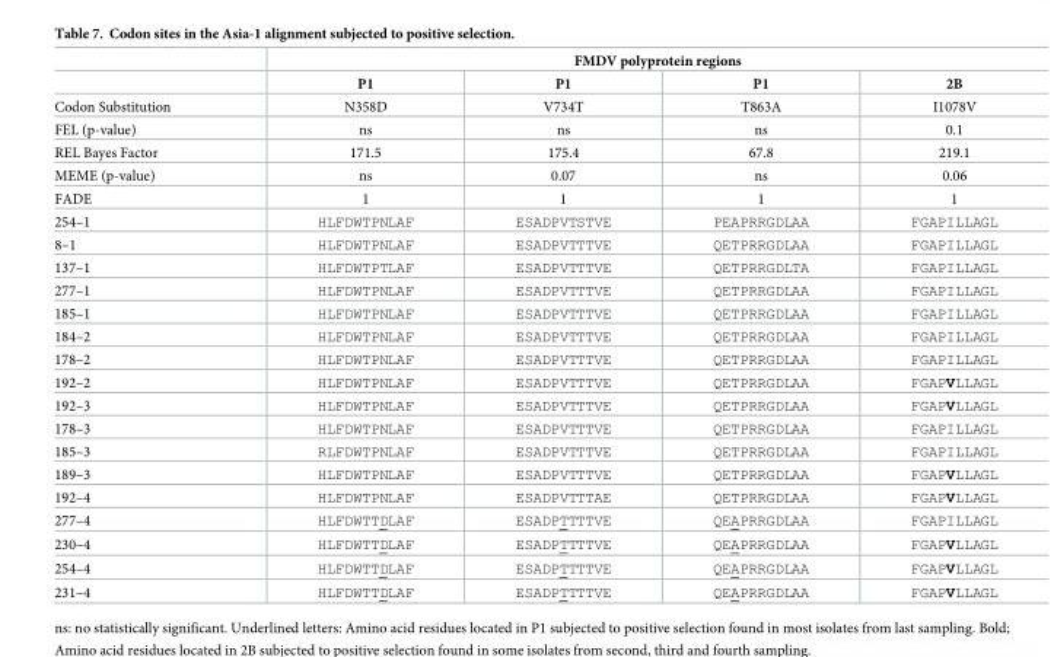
<table><thead><tr><td rowspan="2"></td><td colspan="4">FMDV polyprotein regions</td></tr><tr><td>P1</td><td>P1</td><td>P1</td><td>2B</td></tr></thead><tbody><tr><td>Codon Substitution</td><td>N358D</td><td>V734T</td><td>T863A</td><td>I1078V</td></tr><tr><td>FEL (p-value)</td><td>ns</td><td>ns</td><td>ns</td><td>0.1</td></tr><tr><td>REL Bayes Factor</td><td>171.5</td><td>175.4</td><td>67.8</td><td>219.1</td></tr><tr><td>MEME (p-value)</td><td>ns</td><td>0.07</td><td>ns</td><td>0.06</td></tr><tr><td>FADE</td><td>1</td><td>1</td><td>1</td><td>1</td></tr><tr><td>254–1</td><td>HLFDWTPNLAF</td><td>ESADPVTSTVE</td><td>PEAPRRGDLAA</td><td>FGAPILLAGL</td></tr><tr><td>8–1</td><td>HLFDWTPNLAF</td><td>ESADPVTTTVE</td><td>QETPRRGDLAA</td><td>FGAPILLAGL</td></tr><tr><td>137–1</td><td>HLFDWTPTLAF</td><td>ESADPVTTTVE</td><td>QETPRRGDLTA</td><td>FGAPILLAGL</td></tr><tr><td>277–1</td><td>HLFDWTPNLAF</td><td>ESADPVTTTVE</td><td>QETPRRGDLAA</td><td>FGAPILLAGL</td></tr><tr><td>185–1</td><td>HLFDWTPNLAF</td><td>ESADPVTTTVE</td><td>QETPRRGDLAA</td><td>FGAPILLAGL</td></tr><tr><td>184–2</td><td>HLFDWTPNLAF</td><td>ESADPVTTTVE</td><td>QETPRRGDLAA</td><td>FGAPILLAGL</td></tr><tr><td>178–2</td><td>HLFDWTPNLAF</td><td>ESADPVTTTVE</td><td>QETPRRGDLAA</td><td>FGAPILLAGL</td></tr><tr><td>192–2</td><td>HLFDWTPNLAF</td><td>ESADPVTTTVE</td><td>QETPRRGDLAA</td><td>FGAPVLLAGL</td></tr><tr><td>192–3</td><td>HLFDWTPNLAF</td><td>ESADPVTTTVE</td><td>QETPRRGDLAA</td><td>FGAPVLLAGL</td></tr><tr><td>178–3</td><td>HLFDWTPNLAF</td><td>ESADPVTTTVE</td><td>QETPRRGDLAA</td><td>FGAPILLAGL</td></tr><tr><td>185–3</td><td>RLFDWTPNLAF</td><td>ESADPVTTTVE</td><td>QETPRRGDLAA</td><td>FGAPILLAGL</td></tr><tr><td>189–3</td><td>HLFDWTPNLAF</td><td>ESADPVTTTVE</td><td>QETPRRGDLAA</td><td>FGAPVLLAGL</td></tr><tr><td>192–4</td><td>HLFDWTPNLAF</td><td>ESADPVTTTAE</td><td>QETPRRGDLAA</td><td>FGAPVLLAGL</td></tr><tr><td>277–4</td><td>HLFDWTTDLAF</td><td>ESADPTTTTVE</td><td>QEAPRRGDLAA</td><td>FGAPILLAGL</td></tr><tr><td>230–4</td><td>HLFDWTTDLAF</td><td>ESADPTTTTVE</td><td>QEAPRRGDLAA</td><td>FGAPVLLAGL</td></tr><tr><td>254–4</td><td>HLFDWTTDLAF</td><td>ESADPTTTTVE</td><td>QEAPRRGDLAA</td><td>FGAPVLLAGL</td></tr><tr><td>231–4</td><td>HLFDWTTDLAF</td><td>ESADPTTTTVE</td><td>QEAPRRGDLAA</td><td>FGAPVLLAGL</td></tr></tbody></table>